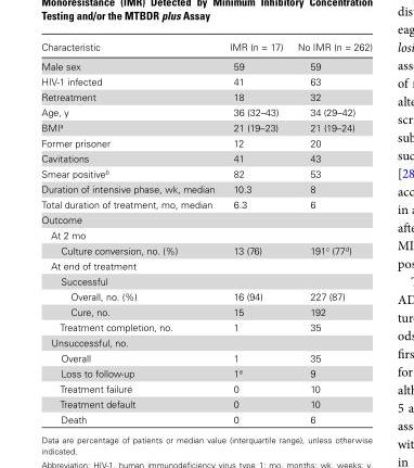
<table><thead><tr><td>Characteristic</td><td>IMR (n = 17)</td><td>No IMR (n = 262)</td></tr></thead><tbody><tr><td>Male sex</td><td>59</td><td>59</td></tr><tr><td>HIV-1 infected</td><td>41</td><td>63</td></tr><tr><td>Retreatment</td><td>18</td><td>32</td></tr><tr><td>Age, y</td><td>36 (32–43)</td><td>34 (29–42)</td></tr><tr><td>BMI<sup>a</sup></td><td>21 (19–23)</td><td>21 (19–24)</td></tr><tr><td>Former prisoner</td><td>12</td><td>20</td></tr><tr><td>Cavitations</td><td>41</td><td>43</td></tr><tr><td>Smear positive<sup>b</sup></td><td>82</td><td>53</td></tr><tr><td>Duration of intensive phase, wk, median</td><td>10.3</td><td>8</td></tr><tr><td>Total duration of treatment, mo, median</td><td>6.3</td><td>6</td></tr><tr><td colspan="3">Outcome</td></tr><tr><td colspan="3">At 2 mo</td></tr><tr><td>Culture conversion, no. (%)</td><td>13 (76)</td><td>191<sup>c</sup> (77<sup>d</sup>)</td></tr><tr><td colspan="3">At end of treatment</td></tr><tr><td colspan="3">Successful</td></tr><tr><td>Overall, no. (%)</td><td>16 (94)</td><td>227 (87)</td></tr><tr><td>Cure, no.</td><td>15</td><td>192</td></tr><tr><td>Treatment completion, no.</td><td>1</td><td>35</td></tr><tr><td colspan="3">Unsuccessful, no.</td></tr><tr><td>Overall</td><td>1</td><td>35</td></tr><tr><td>Loss to follow-up</td><td>1<sup>e</sup></td><td>9</td></tr><tr><td>Treatment failure</td><td>0</td><td>10</td></tr><tr><td>Treatment default</td><td>0</td><td>10</td></tr><tr><td>Death</td><td>0</td><td>6</td></tr></tbody></table>